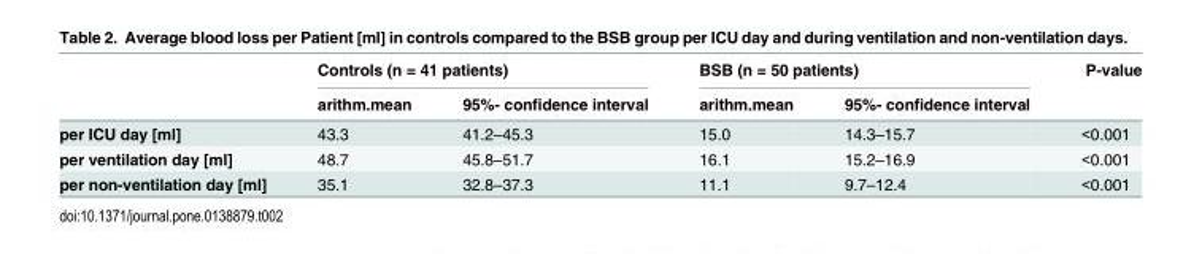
<table><thead><tr><td rowspan="2"></td><td colspan="2">Controls (n = 41 patients)</td><td colspan="2">BSB (n = 50 patients)</td><td rowspan="2">P-value</td></tr><tr><td>arithm.mean</td><td>95%- confidence interval</td><td>arithm.mean</td><td>95%- confidence interval</td></tr></thead><tbody><tr><td>per ICU day [ml]</td><td>43.3</td><td>41.2–45.3</td><td>15.0</td><td>14.3–15.7</td><td>&lt;0.001</td></tr><tr><td>per ventilation day [ml]</td><td>48.7</td><td>45.8–51.7</td><td>16.1</td><td>15.2–16.9</td><td>&lt;0.001</td></tr><tr><td>per non-ventilation day [ml]</td><td>35.1</td><td>32.8–37.3</td><td>11.1</td><td>9.7–12.4</td><td>&lt;0.001</td></tr></tbody></table>